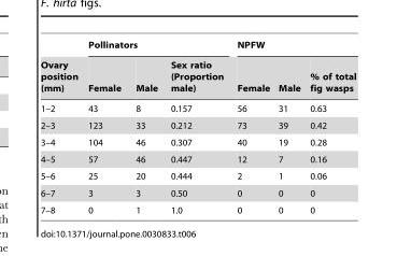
<table><thead><tr><td rowspan="2">Ovary position (mm)</td><td colspan="3">Pollinators</td><td colspan="3">NPFW</td></tr><tr><td>Female</td><td>Male</td><td>Sex ratio (Proportion male)</td><td>Female</td><td>Male</td><td>% of total fig wasps</td></tr></thead><tbody><tr><td>1–2</td><td>43</td><td>8</td><td>0.157</td><td>56</td><td>31</td><td>0.63</td></tr><tr><td>2–3</td><td>123</td><td>33</td><td>0.212</td><td>73</td><td>39</td><td>0.42</td></tr><tr><td>3–4</td><td>104</td><td>46</td><td>0.307</td><td>40</td><td>19</td><td>0.28</td></tr><tr><td>4–5</td><td>57</td><td>46</td><td>0.447</td><td>12</td><td>7</td><td>0.16</td></tr><tr><td>5–6</td><td>25</td><td>20</td><td>0.444</td><td>2</td><td>1</td><td>0.06</td></tr><tr><td>6–7</td><td>3</td><td>3</td><td>0.50</td><td>0</td><td>0</td><td>0</td></tr><tr><td>7–8</td><td>0</td><td>1</td><td>1.0</td><td>0</td><td>0</td><td>0</td></tr></tbody></table>